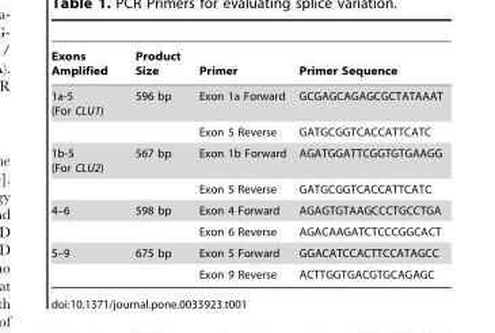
<table><thead><tr><td>Exons Amplified</td><td>Product Size</td><td>Primer</td><td>Primer Sequence</td></tr></thead><tbody><tr><td rowspan="2">1a-5 (For CLU1)</td><td>596 bp</td><td>Exon 1a Forward</td><td>GCGAGCAGAGCGCTATAAAT</td></tr><tr><td></td><td>Exon 5 Reverse</td><td>GATGCGGTCACCATTCATC</td></tr><tr><td rowspan="2">1b-5 (For CLU2)</td><td>567 bp</td><td>Exon 1b Forward</td><td>AGATGGATTCGGTGTGAAGG</td></tr><tr><td></td><td>Exon 5 Reverse</td><td>GATGCGGTCACCATTCATC</td></tr><tr><td rowspan="2">4–6</td><td>598 bp</td><td>Exon 4 Forward</td><td>AGAGTGTAAGCCCTGCCTGA</td></tr><tr><td></td><td>Exon 6 Reverse</td><td>AGACAAGATCTCCCGGCACT</td></tr><tr><td rowspan="2">5–9</td><td>675 bp</td><td>Exon 5 Forward</td><td>GGACATCCACTTCCATAGCC</td></tr><tr><td></td><td>Exon 9 Reverse</td><td>ACTTGGTGACGTGCAGAGC</td></tr></tbody></table>